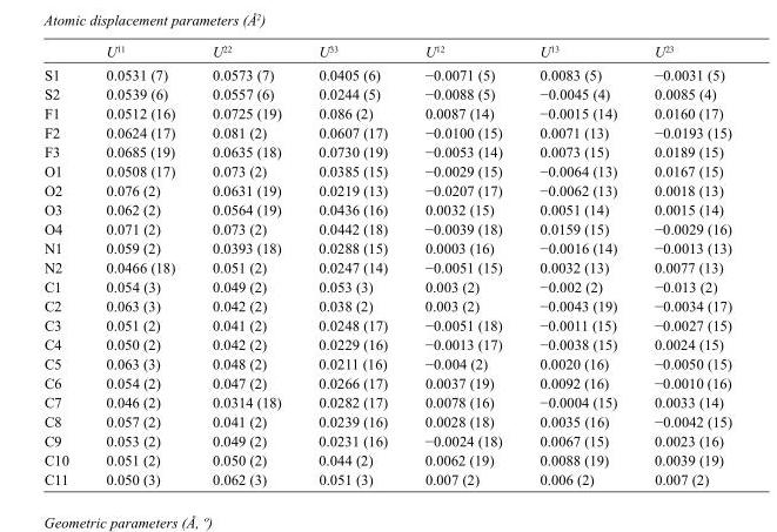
<table><thead><tr><td></td><td>U<sup>11</sup></td><td>U<sup>22</sup></td><td>U<sup>33</sup></td><td>U<sup>12</sup></td><td>U<sup>13</sup></td><td>U<sup>23</sup></td></tr></thead><tbody><tr><td>S1</td><td>0.0531 (7)</td><td>0.0573 (7)</td><td>0.0405 (6)</td><td>−0.0071 (5)</td><td>0.0083 (5)</td><td>−0.0031 (5)</td></tr><tr><td>S2</td><td>0.0539 (6)</td><td>0.0557 (6)</td><td>0.0244 (5)</td><td>−0.0088 (5)</td><td>−0.0045 (4)</td><td>0.0085 (4)</td></tr><tr><td>F1</td><td>0.0512 (16)</td><td>0.0725 (19)</td><td>0.086 (2)</td><td>0.0087 (14)</td><td>−0.0015 (14)</td><td>0.0160 (17)</td></tr><tr><td>F2</td><td>0.0624 (17)</td><td>0.081 (2)</td><td>0.0607 (17)</td><td>−0.0100 (15)</td><td>0.0071 (13)</td><td>−0.0193 (15)</td></tr><tr><td>F3</td><td>0.0685 (19)</td><td>0.0635 (18)</td><td>0.0730 (19)</td><td>−0.0053 (14)</td><td>0.0073 (15)</td><td>0.0189 (15)</td></tr><tr><td>O1</td><td>0.0508 (17)</td><td>0.073 (2)</td><td>0.0385 (15)</td><td>−0.0029 (15)</td><td>−0.0064 (13)</td><td>0.0167 (15)</td></tr><tr><td>O2</td><td>0.076 (2)</td><td>0.0631 (19)</td><td>0.0219 (13)</td><td>−0.0207 (17)</td><td>−0.0062 (13)</td><td>0.0018 (13)</td></tr><tr><td>O3</td><td>0.062 (2)</td><td>0.0564 (19)</td><td>0.0436 (16)</td><td>0.0032 (15)</td><td>0.0051 (14)</td><td>0.0015 (14)</td></tr><tr><td>O4</td><td>0.071 (2)</td><td>0.073 (2)</td><td>0.0442 (18)</td><td>−0.0039 (18)</td><td>0.0159 (15)</td><td>−0.0029 (16)</td></tr><tr><td>N1</td><td>0.059 (2)</td><td>0.0393 (18)</td><td>0.0288 (15)</td><td>0.0003 (16)</td><td>−0.0016 (14)</td><td>−0.0013 (13)</td></tr><tr><td>N2</td><td>0.0466 (18)</td><td>0.051 (2)</td><td>0.0247 (14)</td><td>−0.0051 (15)</td><td>0.0032 (13)</td><td>0.0077 (13)</td></tr><tr><td>C1</td><td>0.054 (3)</td><td>0.049 (2)</td><td>0.053 (3)</td><td>0.003 (2)</td><td>−0.002 (2)</td><td>−0.013 (2)</td></tr><tr><td>C2</td><td>0.063 (3)</td><td>0.042 (2)</td><td>0.038 (2)</td><td>0.003 (2)</td><td>−0.0043 (19)</td><td>−0.0034 (17)</td></tr><tr><td>C3</td><td>0.051 (2)</td><td>0.041 (2)</td><td>0.0248 (17)</td><td>−0.0051 (18)</td><td>−0.0011 (15)</td><td>−0.0027 (15)</td></tr><tr><td>C4</td><td>0.050 (2)</td><td>0.042 (2)</td><td>0.0229 (16)</td><td>−0.0013 (17)</td><td>−0.0038 (15)</td><td>0.0024 (15)</td></tr><tr><td>C5</td><td>0.063 (3)</td><td>0.048 (2)</td><td>0.0211 (16)</td><td>−0.004 (2)</td><td>0.0020 (16)</td><td>−0.0050 (15)</td></tr><tr><td>C6</td><td>0.054 (2)</td><td>0.047 (2)</td><td>0.0266 (17)</td><td>0.0037 (19)</td><td>0.0092 (16)</td><td>−0.0010 (16)</td></tr><tr><td>C7</td><td>0.046 (2)</td><td>0.0314 (18)</td><td>0.0282 (17)</td><td>0.0078 (16)</td><td>−0.0004 (15)</td><td>0.0033 (14)</td></tr><tr><td>C8</td><td>0.057 (2)</td><td>0.041 (2)</td><td>0.0239 (16)</td><td>0.0028 (18)</td><td>0.0035 (16)</td><td>−0.0042 (15)</td></tr><tr><td>C9</td><td>0.053 (2)</td><td>0.049 (2)</td><td>0.0231 (16)</td><td>−0.0024 (18)</td><td>0.0067 (15)</td><td>0.0023 (16)</td></tr><tr><td>C10</td><td>0.051 (2)</td><td>0.050 (2)</td><td>0.044 (2)</td><td>0.0062 (19)</td><td>0.0088 (19)</td><td>0.0039 (19)</td></tr><tr><td>C11</td><td>0.050 (3)</td><td>0.062 (3)</td><td>0.051 (3)</td><td>0.007 (2)</td><td>0.006 (2)</td><td>0.007 (2)</td></tr></tbody></table>